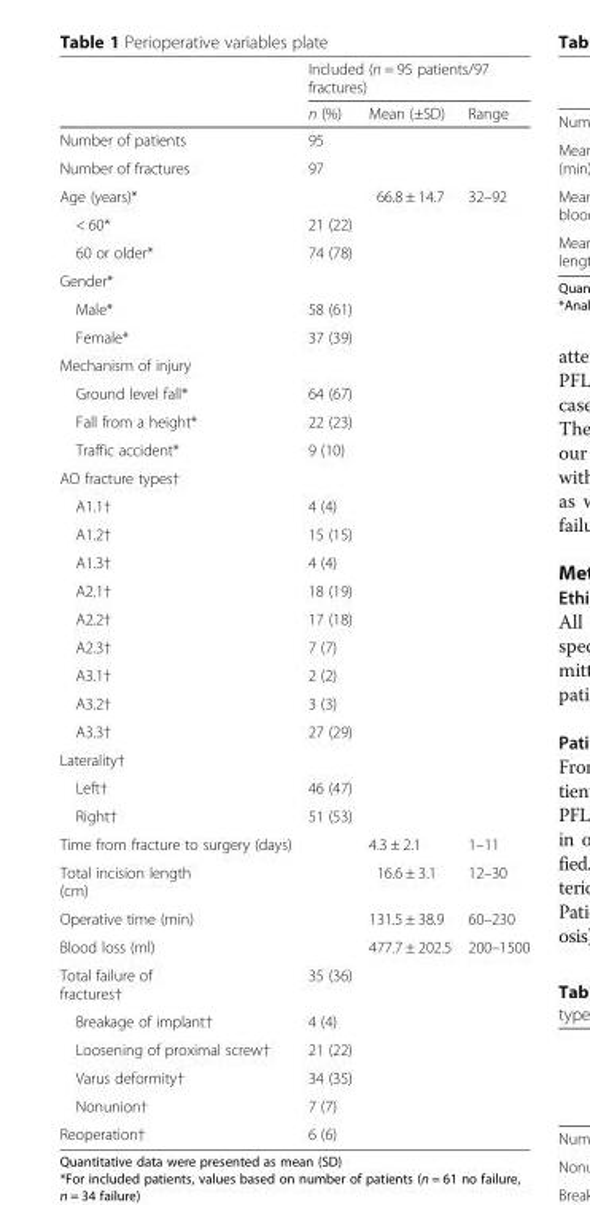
<table><thead><tr><td rowspan="2"></td><td colspan="3">Included (n = 95 patients/97 fractures)</td></tr><tr><td>n (%)</td><td>Mean (±SD)</td><td>Range</td></tr></thead><tbody><tr><td>Number of patients</td><td>95</td><td></td><td></td></tr><tr><td>Number of fractures</td><td>97</td><td></td><td></td></tr><tr><td>Age (years)*</td><td></td><td>66.8 ± 14.7</td><td>32–92</td></tr><tr><td>&lt; 60*</td><td>21 (22)</td><td></td><td></td></tr><tr><td>60 or older*</td><td>74 (78)</td><td></td><td></td></tr><tr><td colspan="4">Gender*</td></tr><tr><td>Male*</td><td>58 (61)</td><td></td><td></td></tr><tr><td>Female*</td><td>37 (39)</td><td></td><td></td></tr><tr><td colspan="4">Mechanism of injury</td></tr><tr><td>Ground level fall*</td><td>64 (67)</td><td></td><td></td></tr><tr><td>Fall from a height*</td><td>22 (23)</td><td></td><td></td></tr><tr><td>Traffic accident*</td><td>9 (10)</td><td></td><td></td></tr><tr><td colspan="4">AO fracture types†</td></tr><tr><td>A1.1†</td><td>4 (4)</td><td></td><td></td></tr><tr><td>A1.2†</td><td>15 (15)</td><td></td><td></td></tr><tr><td>A1.3†</td><td>4 (4)</td><td></td><td></td></tr><tr><td>A2.1†</td><td>18 (19)</td><td></td><td></td></tr><tr><td>A2.2†</td><td>17 (18)</td><td></td><td></td></tr><tr><td>A2.3†</td><td>7 (7)</td><td></td><td></td></tr><tr><td>A3.1†</td><td>2 (2)</td><td></td><td></td></tr><tr><td>A3.2†</td><td>3 (3)</td><td></td><td></td></tr><tr><td>A3.3†</td><td>27 (29)</td><td></td><td></td></tr><tr><td colspan="4">Laterality†</td></tr><tr><td>Left†</td><td>46 (47)</td><td></td><td></td></tr><tr><td>Right†</td><td>51 (53)</td><td></td><td></td></tr><tr><td>Time from fracture to surgery (days)</td><td></td><td>4.3 ± 2.1</td><td>1–11</td></tr><tr><td>Total incision length (cm)</td><td></td><td>16.6 ± 3.1</td><td>12–30</td></tr><tr><td>Operative time (min)</td><td></td><td>131.5 ± 38.9</td><td>60–230</td></tr><tr><td colspan="2">Blood loss (ml)</td><td rowspan="7">477.7 ± 202.5</td><td rowspan="7">200–1500</td></tr><tr><td>Total failure of fractures†</td><td>35 (36)</td></tr><tr><td>Breakage of implant†</td><td>4 (4)</td></tr><tr><td>Loosening of proximal screw†</td><td>21 (22)</td></tr><tr><td>Varus deformity†</td><td>34 (35)</td></tr><tr><td>Nonunion†</td><td>7 (7)</td></tr><tr><td>Reoperation†</td><td>6 (6)</td></tr></tbody></table>